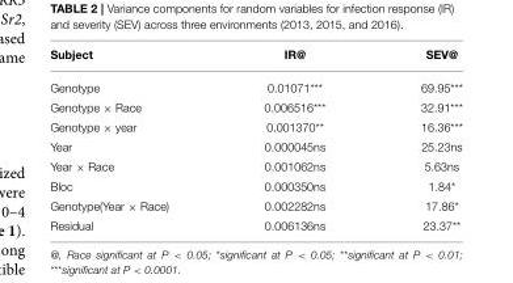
<table><thead><tr><td>Subject</td><td>IR@</td><td>SEV@</td></tr></thead><tbody><tr><td>Genotype</td><td>0.01071***</td><td>69.95***</td></tr><tr><td>Genotype × Race</td><td>0.006516***</td><td>32.91***</td></tr><tr><td>Genotype × year</td><td>0.001370**</td><td>16.36***</td></tr><tr><td>Year</td><td>0.000045ns</td><td>25.23ns</td></tr><tr><td>Year × Race</td><td>0.001062ns</td><td>5.63ns</td></tr><tr><td>Bloc</td><td>0.000350ns</td><td>1.84*</td></tr><tr><td>Genotype(Year × Race)</td><td>0.002282ns</td><td>17.86*</td></tr><tr><td>Residual</td><td>0.006136ns</td><td>23.37**</td></tr></tbody></table>